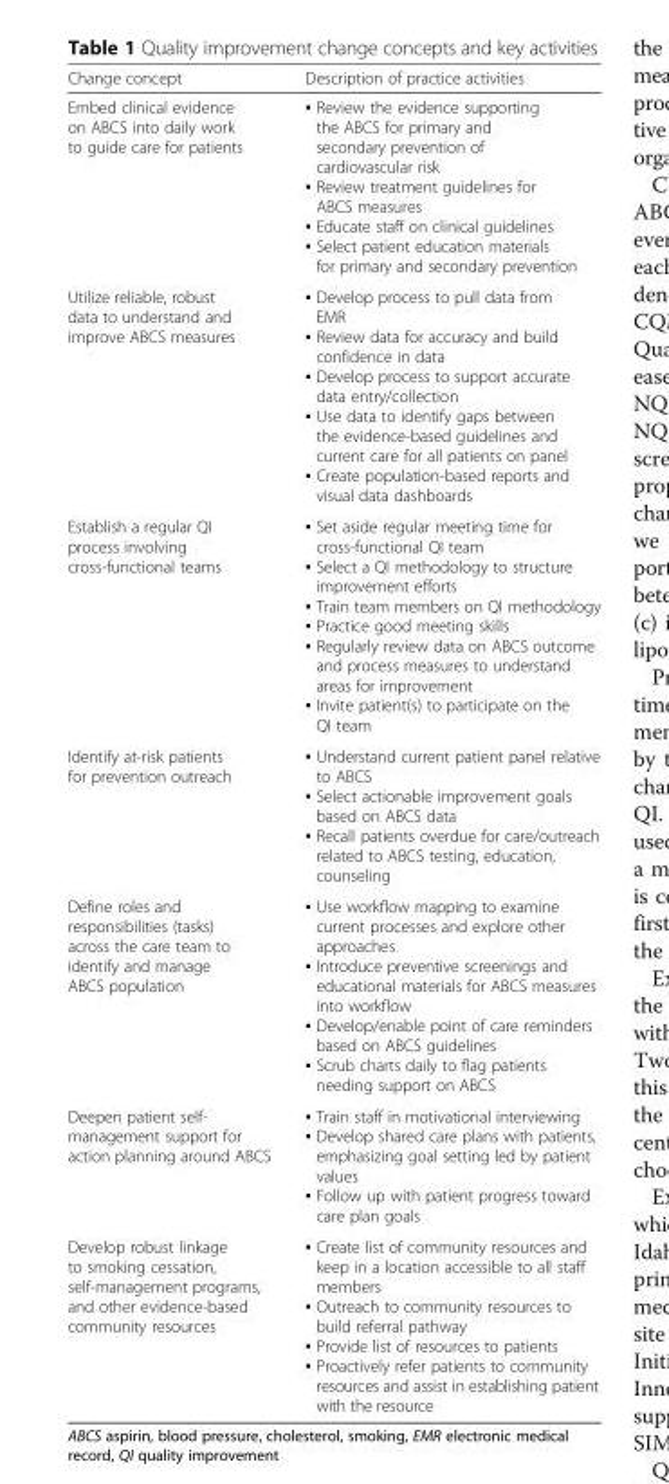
<table><thead><tr><td>Change concept</td><td>Description of practice activities</td></tr></thead><tbody><tr><td>Embed clinical evidence on ABCS into daily work to guide care for patients</td><td>▪ Review the evidence supporting the ABCS for primary and secondary prevention of cardiovascular risk ▪ Review treatment guidelines for ABCS measures ▪ Educate staff on clinical guidelines ▪ Select patient education materials for primary and secondary prevention</td></tr><tr><td>Utilize reliable, robust data to understand and improve ABCS measures</td><td>▪ Develop process to pull data from EMR ▪ Review data for accuracy and build confidence in data ▪ Develop process to support accurate data entry/collection ▪ Use data to identify gaps between the evidence-based guidelines and current care for all patients on panel ▪ Create population-based reports and visual data dashboards</td></tr><tr><td>Establish a regular QI process involving cross-functional teams</td><td>▪ Set aside regular meeting time for cross-functional QI team ▪ Select a QI methodology to structure improvement efforts ▪ Train team members on QI methodology ▪ Practice good meeting skills ▪ Regularly review data on ABCS outcome and process measures to understand areas for improvement ▪ Invite patient(s) to participate on the QI team</td></tr><tr><td>Identify at-risk patients for prevention outreach</td><td>▪ Understand current patient panel relative to ABCS ▪ Select actionable improvement goals based on ABCS data ▪ Recall patients overdue for care/outreach related to ABCS testing, education, counseling</td></tr><tr><td>Define roles and responsibilities (tasks) across the care team to identify and manage ABCS population</td><td>▪ Use workflow mapping to examine current processes and explore other approaches ▪ Introduce preventive screenings and educational materials for ABCS measures into workflow ▪ Develop/enable point of care reminders based on ABCS guidelines ▪ Scrub charts daily to flag patients needing support on ABCS</td></tr><tr><td>Deepen patient self- management support for action planning around ABCS</td><td>▪ Train staff in motivational interviewing ▪ Develop shared care plans with patients, emphasizing goal setting led by patient values ▪ Follow up with patient progress toward care plan goals</td></tr><tr><td>Develop robust linkage to smoking cessation, self-management programs, and other evidence-based community resources</td><td>▪ Create list of community resources and keep in a location accessible to all staff members ▪ Outreach to community resources to build referral pathway ▪ Provide list of resources to patients ▪ Proactively refer patients to community resources and assist in establishing patient with the resource</td></tr></tbody></table>